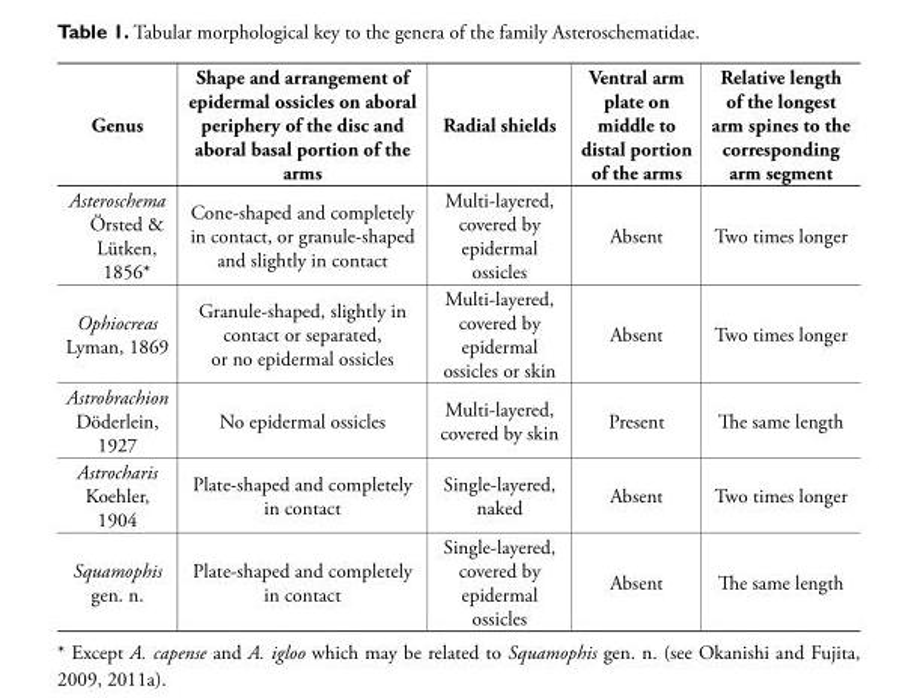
<table><thead><tr><td>Genus</td><td>Shape and arrangement of epidermal ossicles on aboral periphery of the disc and aboral basal portion of the arms</td><td>Radial shields</td><td>Ventral arm plate on middle to distal portion of the arms</td><td>Relative length of the longest arm spines to the corresponding arm segment</td></tr></thead><tbody><tr><td>Asteroschema Örsted &amp; Lütken, 1856*</td><td>Cone-shaped and completely in contact, or granule-shaped and slightly in contact</td><td>Multi-layered, covered by epidermal ossicles</td><td>Absent</td><td>Two times longer</td></tr><tr><td>Ophiocreas Lyman, 1869</td><td>Granule-shaped, slightly in contact or separated, or no epidermal ossicles</td><td>Multi-layered, covered by epidermal ossicles or skin</td><td>Absent</td><td>Two times longer</td></tr><tr><td>Astrobrachion Döderlein, 1927</td><td>No epidermal ossicles</td><td>Multi-layered, covered by skin</td><td>Present</td><td>The same length</td></tr><tr><td>Astrocharis Koehler, 1904</td><td>Plate-shaped and completely in contact</td><td>Single-layered, naked</td><td>Absent</td><td>Two times longer</td></tr><tr><td>Squamophis gen. n.</td><td>Plate-shaped and completely in contact</td><td>Single-layered, covered by epidermal ossicles</td><td>Absent</td><td>The same length</td></tr></tbody></table>